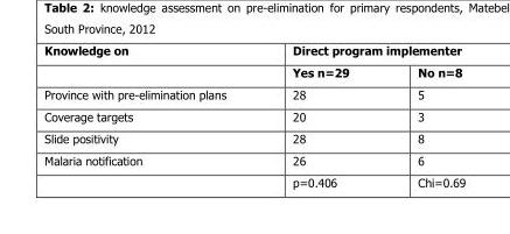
<table><thead><tr><td rowspan="2">Knowledge on</td><td colspan="2">Direct program implementer</td></tr><tr><td>Yes n=29</td><td>No n=8</td></tr></thead><tbody><tr><td>Province with pre-elimination plans</td><td>28</td><td>5</td></tr><tr><td>Coverage targets</td><td>20</td><td>3</td></tr><tr><td>Slide positivity</td><td>28</td><td>8</td></tr><tr><td rowspan="2">Malaria notification</td><td>26</td><td>6</td></tr><tr><td>p=0.406</td><td>Chi=0.69</td></tr></tbody></table>